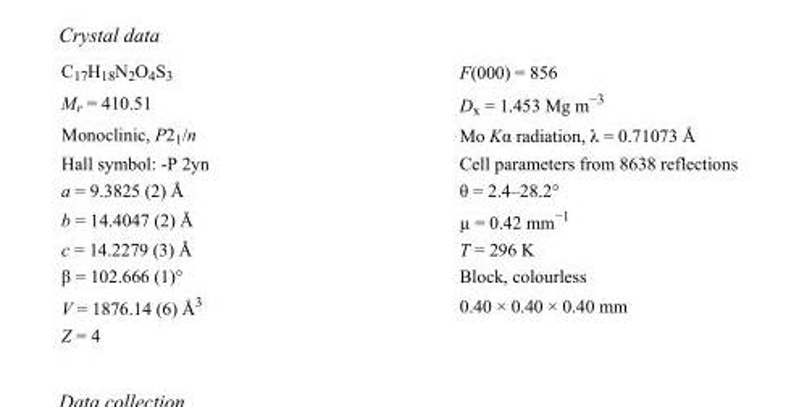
<table><tbody><tr><td>C<sub>17</sub>H<sub>18</sub>N<sub>2</sub>O<sub>4</sub>S<sub>3</sub></td><td>F(000) = 856</td></tr><tr><td>M<sub>r</sub> = 410.51</td><td>D<sub>x</sub> = 1.453 Mg m<sup>−3</sup></td></tr><tr><td>Monoclinic, P2<sub>1</sub>/n</td><td>Mo Kα radiation, λ = 0.71073 Å</td></tr><tr><td>Hall symbol: -P 2yn</td><td>Cell parameters from 8638 reflections</td></tr><tr><td>a = 9.3825 (2) Å</td><td>θ = 2.4–28.2°</td></tr><tr><td>b = 14.4047 (2) Å</td><td>µ = 0.42 mm<sup>−1</sup></td></tr><tr><td>c = 14.2279 (3) Å</td><td>T = 296 K</td></tr><tr><td>β = 102.666 (1)°</td><td>Block, colourless</td></tr><tr><td>V = 1876.14 (6) Å<sup>3</sup></td><td>0.40 × 0.40 × 0.40 mm</td></tr><tr><td>Z = 4</td><td></td></tr></tbody></table>